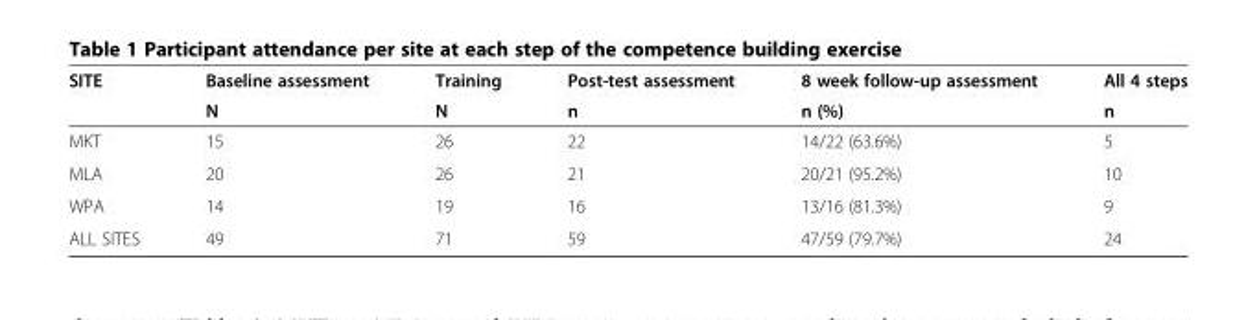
<table><thead><tr><td rowspan="2">SITE</td><td rowspan="2">Baseline assessment N</td><td rowspan="2">Training N</td><td rowspan="2">Post-test assessment n</td><td rowspan="2">8 week follow-up assessment n (%)</td><td rowspan="2">All 4 steps n</td></tr><tr></tr></thead><tbody><tr><td>MKT</td><td>15</td><td>26</td><td>22</td><td>14/22 (63.6%)</td><td>5</td></tr><tr><td>MLA</td><td>20</td><td>26</td><td>21</td><td>20/21 (95.2%)</td><td>10</td></tr><tr><td>WPA</td><td>14</td><td>19</td><td>16</td><td>13/16 (81.3%)</td><td>9</td></tr><tr><td>ALL SITES</td><td>49</td><td>71</td><td>59</td><td>47/59 (79.7%)</td><td>24</td></tr></tbody></table>